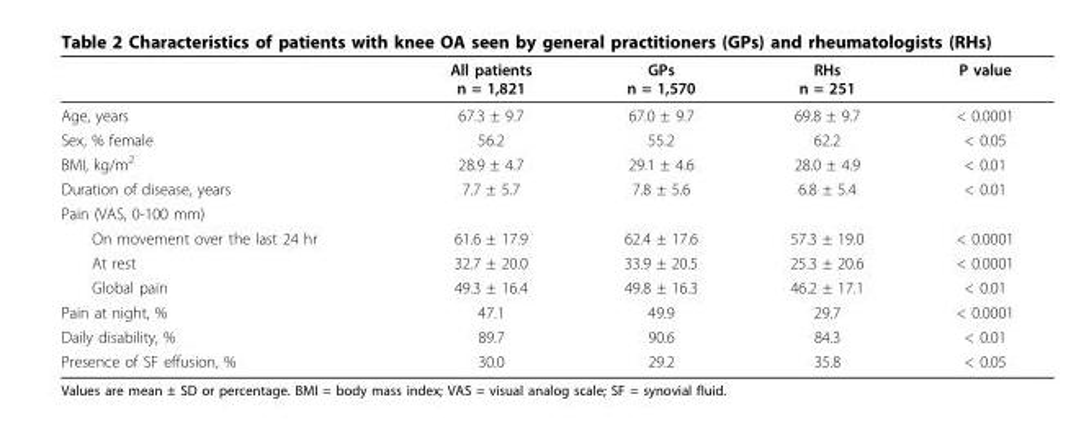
<table><thead><tr><td></td><td>All patients n = 1,821</td><td>GPs n = 1,570</td><td>RHs n = 251</td><td>P value</td></tr></thead><tbody><tr><td>Age, years</td><td>67.3 ± 9.7</td><td>67.0 ± 9.7</td><td>69.8 ± 9.7</td><td>&lt; 0.0001</td></tr><tr><td>Sex, % female</td><td>56.2</td><td>55.2</td><td>62.2</td><td>&lt; 0.05</td></tr><tr><td>BMI, kg/m<sup>2</sup></td><td>28.9 ± 4.7</td><td>29.1 ± 4.6</td><td>28.0 ± 4.9</td><td>&lt; 0.01</td></tr><tr><td>Duration of disease, years</td><td>7.7 ± 5.7</td><td>7.8 ± 5.6</td><td>6.8 ± 5.4</td><td>&lt; 0.01</td></tr><tr><td colspan="5">Pain (VAS, 0-100 mm)</td></tr><tr><td>On movement over the last 24 hr</td><td>61.6 ± 17.9</td><td>62.4 ± 17.6</td><td>57.3 ± 19.0</td><td>&lt; 0.0001</td></tr><tr><td>At rest</td><td>32.7 ± 20.0</td><td>33.9 ± 20.5</td><td>25.3 ± 20.6</td><td>&lt; 0.0001</td></tr><tr><td>Global pain</td><td>49.3 ± 16.4</td><td>49.8 ± 16.3</td><td>46.2 ± 17.1</td><td>&lt; 0.01</td></tr><tr><td>Pain at night, %</td><td>47.1</td><td>49.9</td><td>29.7</td><td>&lt; 0.0001</td></tr><tr><td>Daily disability, %</td><td>89.7</td><td>90.6</td><td>84.3</td><td>&lt; 0.01</td></tr><tr><td>Presence of SF effusion, %</td><td>30.0</td><td>29.2</td><td>35.8</td><td>&lt; 0.05</td></tr></tbody></table>